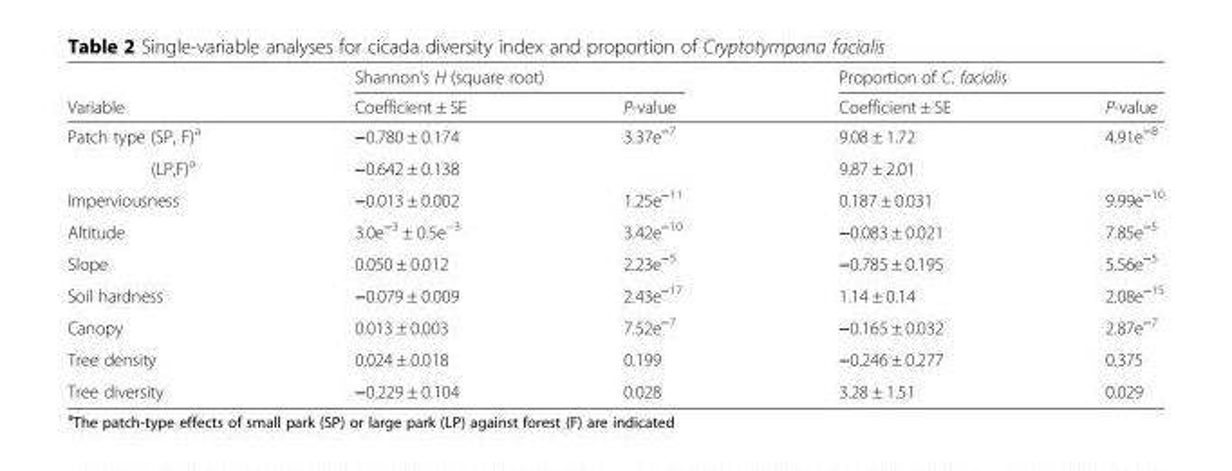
<table><thead><tr><td rowspan="2">Variable</td><td colspan="2">Shannon&#x27;s H (square root)</td><td colspan="2">Proportion of C. facialis</td></tr><tr><td>Coefficient ± SE</td><td>P-value</td><td>Coefficient ± SE</td><td>P-value</td></tr></thead><tbody><tr><td>Patch type (SP, F)<sup>a</sup></td><td>−0.780 ± 0.174</td><td>3.37e<sup>−7</sup></td><td>9.08 ± 1.72</td><td>4.91e<sup>−8</sup></td></tr><tr><td>(LP,F)<sup>a</sup></td><td>−0.642 ± 0.138</td><td></td><td>9.87 ± 2.01</td><td></td></tr><tr><td>Imperviousness</td><td>−0.013 ± 0.002</td><td>1.25e<sup>−11</sup></td><td>0.187 ± 0.031</td><td>9.99e<sup>−10</sup></td></tr><tr><td>Altitude</td><td>3.0e<sup>−3</sup> ± 0.5e<sup>−3</sup></td><td>3.42e<sup>−10</sup></td><td>−0.083 ± 0.021</td><td>7.85e<sup>−5</sup></td></tr><tr><td>Slope</td><td>0.050 ± 0.012</td><td>2.23e<sup>−5</sup></td><td>−0.785 ± 0.195</td><td>5.56e<sup>−5</sup></td></tr><tr><td>Soil hardness</td><td>−0.079 ± 0.009</td><td>2.43e<sup>−17</sup></td><td>1.14 ± 0.14</td><td>2.08e<sup>−15</sup></td></tr><tr><td>Canopy</td><td>0.013 ± 0.003</td><td>7.52e<sup>−7</sup></td><td>−0.165 ± 0.032</td><td>2.87e<sup>−7</sup></td></tr><tr><td>Tree density</td><td>0.024 ± 0.018</td><td>0.199</td><td>−0.246 ± 0.277</td><td>0.375</td></tr><tr><td>Tree diversity</td><td>−0.229 ± 0.104</td><td>0.028</td><td>3.28 ± 1.51</td><td>0.029</td></tr></tbody></table>